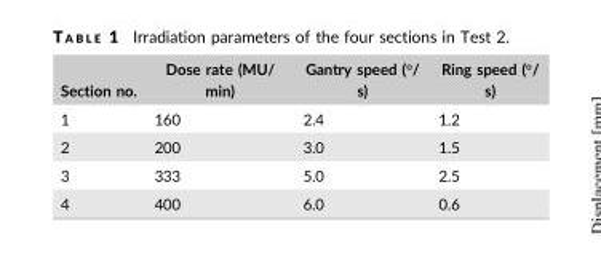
<table><thead><tr><td>Section no.</td><td>Dose rate (MU/ min)</td><td>Gantry speed (°/ s)</td><td>Ring speed (°/ s)</td></tr></thead><tbody><tr><td>1</td><td>160</td><td>2.4</td><td>1.2</td></tr><tr><td>2</td><td>200</td><td>3.0</td><td>1.5</td></tr><tr><td>3</td><td>333</td><td>5.0</td><td>2.5</td></tr><tr><td>4</td><td>400</td><td>6.0</td><td>0.6</td></tr></tbody></table>